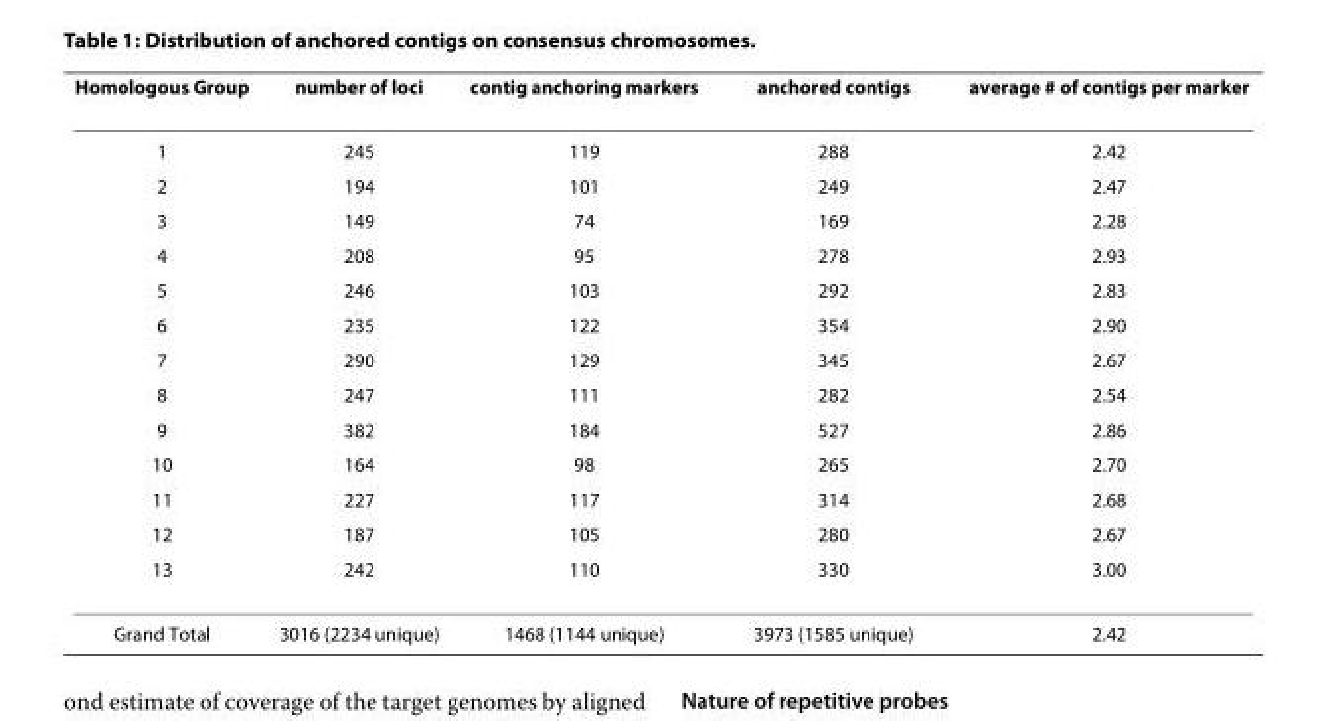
<table><thead><tr><td>Homologous Group</td><td>number of loci</td><td>contig anchoring markers</td><td>anchored contigs</td><td>average # of contigs per marker</td></tr></thead><tbody><tr><td>1</td><td>245</td><td>119</td><td>288</td><td>2.42</td></tr><tr><td>2</td><td>194</td><td>101</td><td>249</td><td>2.47</td></tr><tr><td>3</td><td>149</td><td>74</td><td>169</td><td>2.28</td></tr><tr><td>4</td><td>208</td><td>95</td><td>278</td><td>2.93</td></tr><tr><td>5</td><td>246</td><td>103</td><td>292</td><td>2.83</td></tr><tr><td>6</td><td>235</td><td>122</td><td>354</td><td>2.90</td></tr><tr><td>7</td><td>290</td><td>129</td><td>345</td><td>2.67</td></tr><tr><td>8</td><td>247</td><td>111</td><td>282</td><td>2.54</td></tr><tr><td>9</td><td>382</td><td>184</td><td>527</td><td>2.86</td></tr><tr><td>10</td><td>164</td><td>98</td><td>265</td><td>2.70</td></tr><tr><td>11</td><td>227</td><td>117</td><td>314</td><td>2.68</td></tr><tr><td>12</td><td>187</td><td>105</td><td>280</td><td>2.67</td></tr><tr><td>13</td><td>242</td><td>110</td><td>330</td><td>3.00</td></tr><tr><td>Grand Total</td><td>3016 (2234 unique)</td><td>1468 (1144 unique)</td><td>3973 (1585 unique)</td><td>2.42</td></tr></tbody></table>